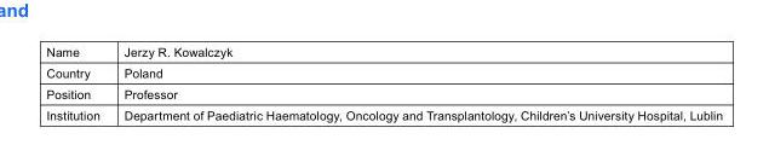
<table><tbody><tr><td>Name</td><td>Jerzy R. Kowalczyk</td></tr><tr><td>Country</td><td>Poland</td></tr><tr><td>Position</td><td>Professor</td></tr><tr><td>Institution</td><td>Department of Paediatric Haematology, Oncology and Transplantology, Children’s University Hospital, Lublin</td></tr></tbody></table>